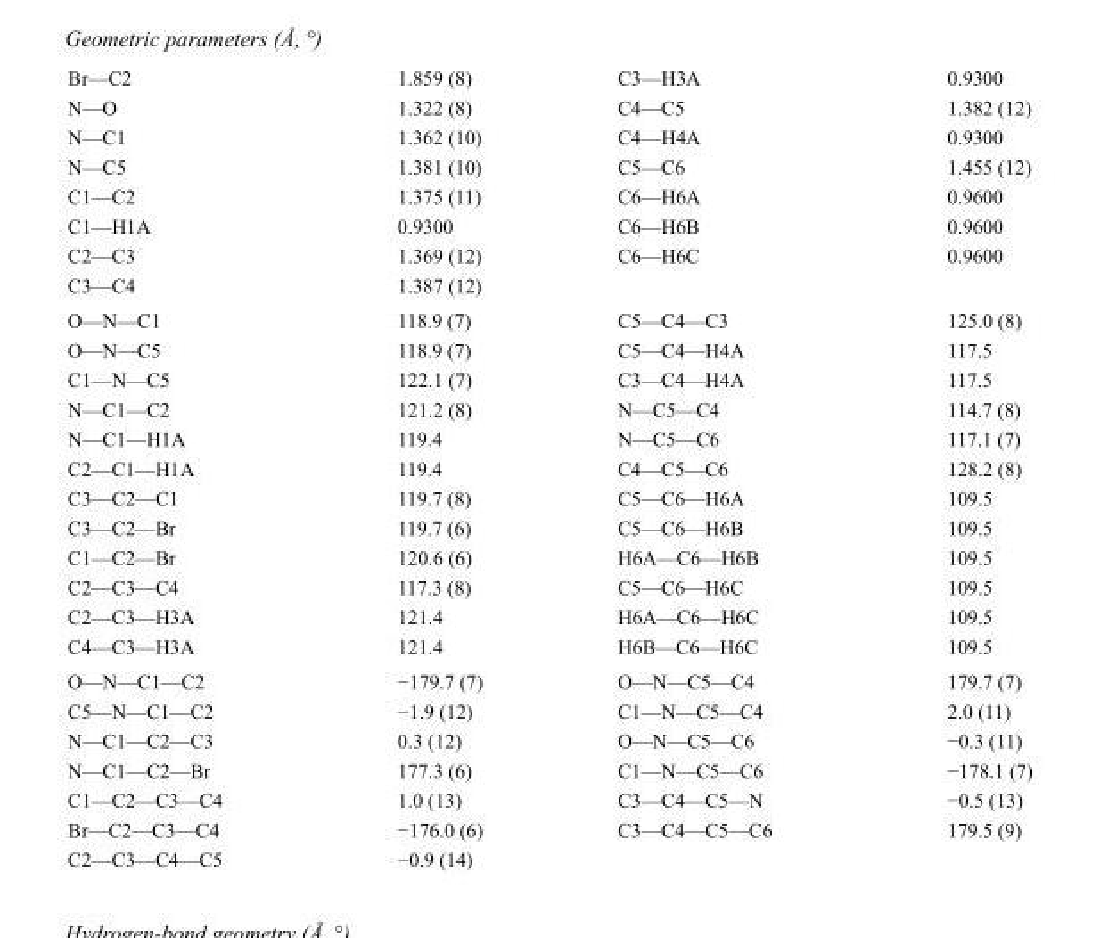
<table><tbody><tr><td>Br—C2</td><td>1.859 (8)</td><td>C3—H3A</td><td>0.9300</td></tr><tr><td>N—O</td><td>1.322 (8)</td><td>C4—C5</td><td>1.382 (12)</td></tr><tr><td>N—C1</td><td>1.362 (10)</td><td>C4—H4A</td><td>0.9300</td></tr><tr><td>N—C5</td><td>1.381 (10)</td><td>C5—C6</td><td>1.455 (12)</td></tr><tr><td>C1—C2</td><td>1.375 (11)</td><td>C6—H6A</td><td>0.9600</td></tr><tr><td>C1—H1A</td><td>0.9300</td><td>C6—H6B</td><td>0.9600</td></tr><tr><td>C2—C3</td><td>1.369 (12)</td><td>C6—H6C</td><td>0.9600</td></tr><tr><td>C3—C4</td><td>1.387 (12)</td><td></td><td></td></tr><tr><td>O—N—C1</td><td>118.9 (7)</td><td>C5—C4—C3</td><td>125.0 (8)</td></tr><tr><td>O—N—C5</td><td>118.9 (7)</td><td>C5—C4—H4A</td><td>117.5</td></tr><tr><td>C1—N—C5</td><td>122.1 (7)</td><td>C3—C4—H4A</td><td>117.5</td></tr><tr><td>N—C1—C2</td><td>121.2 (8)</td><td>N—C5—C4</td><td>114.7 (8)</td></tr><tr><td>N—C1—H1A</td><td>119.4</td><td>N—C5—C6</td><td>117.1 (7)</td></tr><tr><td>C2—C1—H1A</td><td>119.4</td><td>C4—C5—C6</td><td>128.2 (8)</td></tr><tr><td>C3—C2—C1</td><td>119.7 (8)</td><td>C5—C6—H6A</td><td>109.5</td></tr><tr><td>C3—C2—Br</td><td>119.7 (6)</td><td>C5—C6—H6B</td><td>109.5</td></tr><tr><td>C1—C2—Br</td><td>120.6 (6)</td><td>H6A—C6—H6B</td><td>109.5</td></tr><tr><td>C2—C3—C4</td><td>117.3 (8)</td><td>C5—C6—H6C</td><td>109.5</td></tr><tr><td>C2—C3—H3A</td><td>121.4</td><td>H6A—C6—H6C</td><td>109.5</td></tr><tr><td>C4—C3—H3A</td><td>121.4</td><td>H6B—C6—H6C</td><td>109.5</td></tr><tr><td>O—N—C1—C2</td><td>−179.7 (7)</td><td>O—N—C5—C4</td><td>179.7 (7)</td></tr><tr><td>C5—N—C1—C2</td><td>−1.9 (12)</td><td>C1—N—C5—C4</td><td>2.0 (11)</td></tr><tr><td>N—C1—C2—C3</td><td>0.3 (12)</td><td>O—N—C5—C6</td><td>−0.3 (11)</td></tr><tr><td>N—C1—C2—Br</td><td>177.3 (6)</td><td>C1—N—C5—C6</td><td>−178.1 (7)</td></tr><tr><td>C1—C2—C3—C4</td><td>1.0 (13)</td><td>C3—C4—C5—N</td><td>−0.5 (13)</td></tr><tr><td>Br—C2—C3—C4</td><td>−176.0 (6)</td><td>C3—C4—C5—C6</td><td>179.5 (9)</td></tr><tr><td>C2—C3—C4—C5</td><td>−0.9 (14)</td><td></td><td></td></tr></tbody></table>